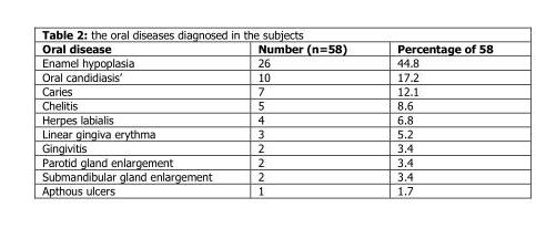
<table><thead><tr><td>Oral disease</td><td>Number (n=58)</td><td>Percentage of 58</td></tr></thead><tbody><tr><td>Enamel hypoplasia</td><td>26</td><td>44.8</td></tr><tr><td>Oral candidiasis’</td><td>10</td><td>17.2</td></tr><tr><td>Caries</td><td>7</td><td>12.1</td></tr><tr><td>Chelitis</td><td>5</td><td>8.6</td></tr><tr><td>Herpes labialis</td><td>4</td><td>6.8</td></tr><tr><td>Linear gingiva erythma</td><td>3</td><td>5.2</td></tr><tr><td>Gingivitis</td><td>2</td><td>3.4</td></tr><tr><td>Parotid gland enlargement</td><td>2</td><td>3.4</td></tr><tr><td>Submandibular gland enlargement</td><td>2</td><td>3.4</td></tr><tr><td>Apthous ulcers</td><td>1</td><td>1.7</td></tr></tbody></table>